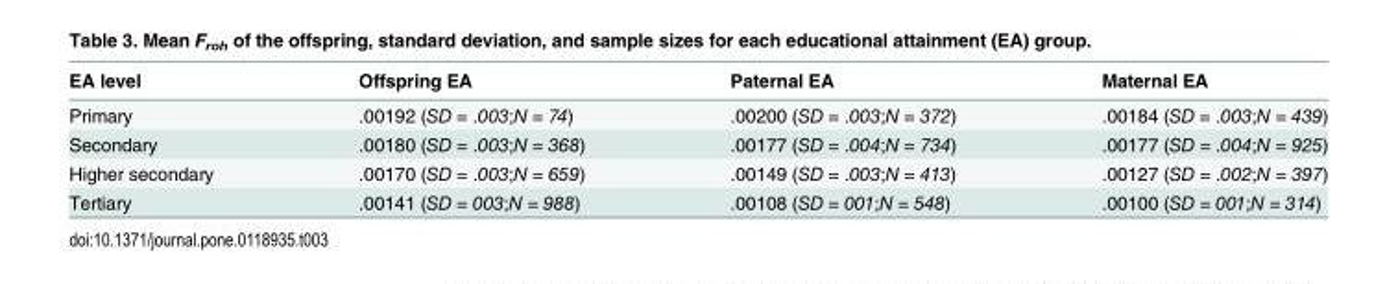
<table><thead><tr><td>EA level</td><td>Offspring EA</td><td>Paternal EA</td><td>Maternal EA</td></tr></thead><tbody><tr><td>Primary</td><td>.00192 (SD = .003;N = 74)</td><td>.00200 (SD = .003;N = 372)</td><td>.00184 (SD = .003;N = 439)</td></tr><tr><td>Secondary</td><td>.00180 (SD = .003;N = 368)</td><td>.00177 (SD = .004;N = 734)</td><td>.00177 (SD = .004;N = 925)</td></tr><tr><td>Higher secondary</td><td>.00170 (SD = .003;N = 659)</td><td>.00149 (SD = .003;N = 413)</td><td>.00127 (SD = .002;N = 397)</td></tr><tr><td>Tertiary</td><td>.00141 (SD = 003;N = 988)</td><td>.00108 (SD = 001;N = 548)</td><td>.00100 (SD = 001;N = 314)</td></tr></tbody></table>